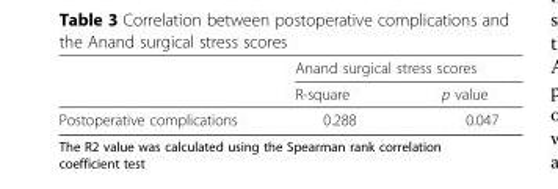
<table><thead><tr><td rowspan="2"></td><td colspan="2">Anand surgical stress scores</td></tr><tr><td>R-square</td><td>p value</td></tr></thead><tbody><tr><td>Postoperative complications</td><td>0.288</td><td>0.047</td></tr></tbody></table>